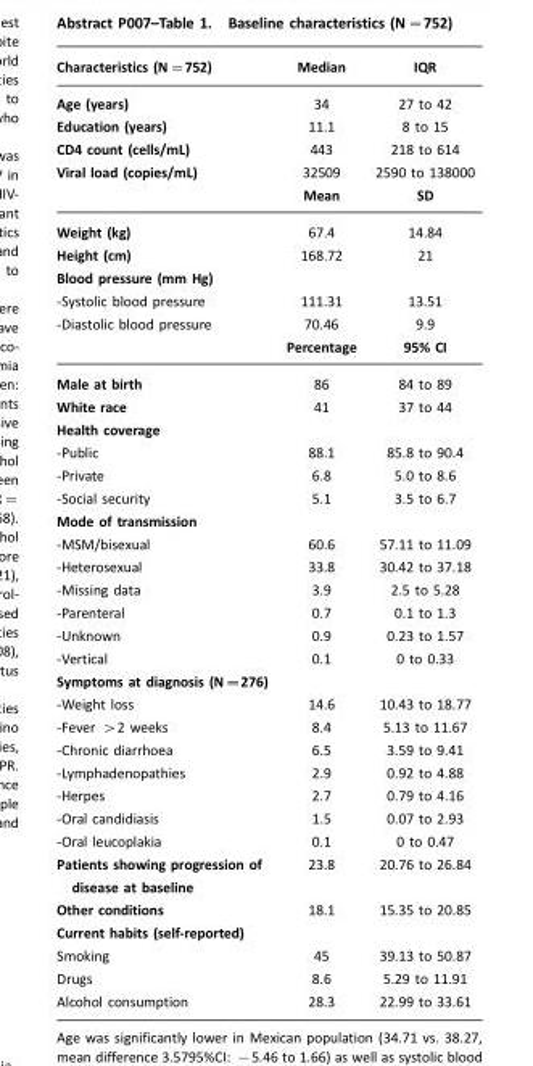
<table><thead><tr><td>Characteristics (N=752)</td><td>Median</td><td>IQR</td></tr></thead><tbody><tr><td>Age (years)</td><td>34</td><td>27 to 42</td></tr><tr><td>Education (years)</td><td>11.1</td><td>8 to 15</td></tr><tr><td>CD4 count (cells/mL)</td><td>443</td><td>218 to 614</td></tr><tr><td rowspan="2">Viral load (copies/mL)</td><td>32509</td><td>2590 to 138000</td></tr><tr><td>Mean</td><td>SD</td></tr><tr><td>Weight (kg)</td><td>67.4</td><td>14.84</td></tr><tr><td>Height (cm)</td><td>168.72</td><td>21</td></tr><tr><td colspan="3">Blood pressure (mm Hg)</td></tr><tr><td>-Systolic blood pressure</td><td>111.31</td><td>13.51</td></tr><tr><td rowspan="2">-Diastolic blood pressure</td><td>70.46</td><td>9.9</td></tr><tr><td>Percentage</td><td>95% CI</td></tr><tr><td>Male at birth</td><td>86</td><td>84 to 89</td></tr><tr><td>White race</td><td>41</td><td>37 to 44</td></tr><tr><td colspan="3">Health coverage</td></tr><tr><td>-Public</td><td>88.1</td><td>85.8 to 90.4</td></tr><tr><td>-Private</td><td>6.8</td><td>5.0 to 8.6</td></tr><tr><td>-Social security</td><td>5.1</td><td>3.5 to 6.7</td></tr><tr><td colspan="3">Mode of transmission</td></tr><tr><td>-MSM/bisexual</td><td>60.6</td><td>57.11 to 11.09</td></tr><tr><td>-Heterosexual</td><td>33.8</td><td>30.42 to 37.18</td></tr><tr><td>-Missing data</td><td>3.9</td><td>2.5 to 5.28</td></tr><tr><td>-Parenteral</td><td>0.7</td><td>0.1 to 1.3</td></tr><tr><td>-Unknown</td><td>0.9</td><td>0.23 to 1.57</td></tr><tr><td>-Vertical</td><td>0.1</td><td>0 to 0.33</td></tr><tr><td colspan="3">Symptoms at diagnosis (N=276)</td></tr><tr><td>-Weight loss</td><td>14.6</td><td>10.43 to 18.77</td></tr><tr><td>-Fever &gt;2 weeks</td><td>8.4</td><td>5.13 to 11.67</td></tr><tr><td>-Chronic diarrhoea</td><td>6.5</td><td>3.59 to 9.41</td></tr><tr><td>-Lymphadenopathies</td><td>2.9</td><td>0.92 to 4.88</td></tr><tr><td>-Herpes</td><td>2.7</td><td>0.79 to 4.16</td></tr><tr><td>-Oral candidiasis</td><td>1.5</td><td>0.07 to 2.93</td></tr><tr><td>-Oral leucoplakia</td><td>0.1</td><td>0 to 0.47</td></tr><tr><td>Patients showing progression of disease at baseline</td><td>23.8</td><td>20.76 to 26.84</td></tr><tr><td>Other conditions</td><td>18.1</td><td>15.35 to 20.85</td></tr><tr><td colspan="3">Current habits (self-reported)</td></tr><tr><td>Smoking</td><td>45</td><td>39.13 to 50.87</td></tr><tr><td>Drugs</td><td>8.6</td><td>5.29 to 11.91</td></tr><tr><td>Alcohol consumption</td><td>28.3</td><td>22.99 to 33.61</td></tr></tbody></table>